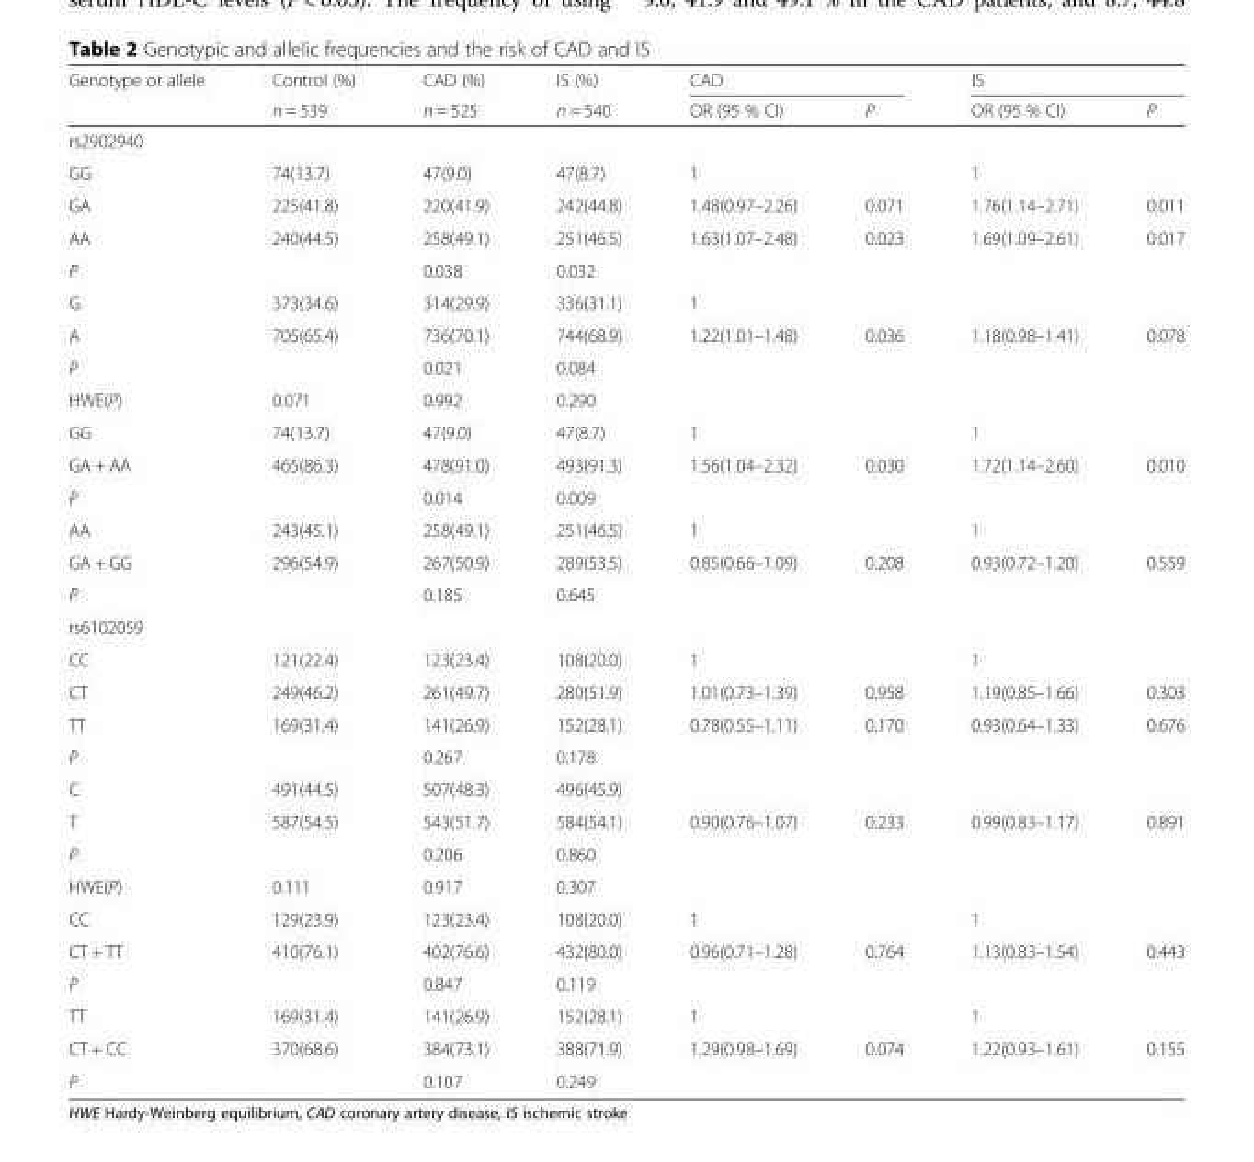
<table><thead><tr><td rowspan="2">Genotype or allele</td><td rowspan="2">Control (%) n = 539</td><td rowspan="2">CAD (%) n = 525</td><td rowspan="2">IS (%) n = 540</td><td colspan="2">CAD</td><td colspan="2">IS</td></tr><tr><td>OR (95 % CI)</td><td>P</td><td>OR (95 % CI)</td><td>P</td></tr></thead><tbody><tr><td colspan="8">rs2902940</td></tr><tr><td>GG</td><td>74(13.7)</td><td>47(9.0)</td><td>47(8.7)</td><td>1</td><td></td><td>1</td><td></td></tr><tr><td>GA</td><td>225(41.8)</td><td>220(41.9)</td><td>242(44.8)</td><td>1.48(0.97–2.26)</td><td>0.071</td><td>1.76(1.14–2.71)</td><td>0.011</td></tr><tr><td>AA</td><td>240(44.5)</td><td>258(49.1)</td><td>251(46.5)</td><td>1.63(1.07–2.48)</td><td>0.023</td><td>1.69(1.09–2.61)</td><td>0.017</td></tr><tr><td>P</td><td></td><td>0.038</td><td>0.032</td><td></td><td></td><td></td><td></td></tr><tr><td>G</td><td>373(34.6)</td><td>314(29.9)</td><td>336(31.1)</td><td>1</td><td></td><td></td><td></td></tr><tr><td>A</td><td>705(65.4)</td><td>736(70.1)</td><td>744(68.9)</td><td>1.22(1.01–1.48)</td><td>0.036</td><td>1.18(0.98–1.41)</td><td>0.078</td></tr><tr><td>P</td><td></td><td>0.021</td><td>0.084</td><td></td><td></td><td></td><td></td></tr><tr><td>HWE(P)</td><td>0.071</td><td>0.992</td><td>0.290</td><td></td><td></td><td></td><td></td></tr><tr><td>GG</td><td>74(13.7)</td><td>47(9.0)</td><td>47(8.7)</td><td>1</td><td></td><td>1</td><td></td></tr><tr><td>GA + AA</td><td>465(86.3)</td><td>478(91.0)</td><td>493(91.3)</td><td>1.56(1.04–2.32)</td><td>0.030</td><td>1.72(1.14–2.60)</td><td>0.010</td></tr><tr><td>P</td><td></td><td>0.014</td><td>0.009</td><td></td><td></td><td></td><td></td></tr><tr><td>AA</td><td>243(45.1)</td><td>258(49.1)</td><td>251(46.5)</td><td>1</td><td></td><td>1</td><td></td></tr><tr><td>GA + GG</td><td>296(54.9)</td><td>267(50.9)</td><td>289(53.5)</td><td>0.85(0.66–1.09)</td><td>0.208</td><td>0.93(0.72–1.20)</td><td>0.559</td></tr><tr><td>P</td><td></td><td>0.185</td><td>0.645</td><td></td><td></td><td></td><td></td></tr><tr><td colspan="8">rs6102059</td></tr><tr><td>CC</td><td>121(22.4)</td><td>123(23.4)</td><td>108(20.0)</td><td>1</td><td></td><td>1</td><td></td></tr><tr><td>CT</td><td>249(46.2)</td><td>261(49.7)</td><td>280(51.9)</td><td>1.01(0.73–1.39)</td><td>0.958</td><td>1.19(0.85–1.66)</td><td>0.303</td></tr><tr><td>TT</td><td>169(31.4)</td><td>141(26.9)</td><td>152(28.1)</td><td>0.78(0.55–1.11)</td><td>0.170</td><td>0.93(0.64–1.33)</td><td>0.676</td></tr><tr><td>P</td><td></td><td>0.267</td><td>0.178</td><td></td><td></td><td></td><td></td></tr><tr><td>C</td><td>491(44.5)</td><td>507(48.3)</td><td>496(45.9)</td><td></td><td></td><td></td><td></td></tr><tr><td>T</td><td>587(54.5)</td><td>543(51.7)</td><td>584(54.1)</td><td>0.90(0.76–1.07)</td><td>0.233</td><td>0.99(0.83–1.17)</td><td>0.891</td></tr><tr><td>P</td><td></td><td>0.206</td><td>0.860</td><td></td><td></td><td></td><td></td></tr><tr><td>HWE(P)</td><td>0.111</td><td>0.917</td><td>0.307</td><td></td><td></td><td></td><td></td></tr><tr><td>CC</td><td>129(23.9)</td><td>123(23.4)</td><td>108(20.0)</td><td>1</td><td></td><td>1</td><td></td></tr><tr><td>CT + TT</td><td>410(76.1)</td><td>402(76.6)</td><td>432(80.0)</td><td>0.96(0.71–1.28)</td><td>0.764</td><td>1.13(0.83–1.54)</td><td>0.443</td></tr><tr><td>P</td><td></td><td>0.847</td><td>0.119</td><td></td><td></td><td></td><td></td></tr><tr><td>TT</td><td>169(31.4)</td><td>141(26.9)</td><td>152(28.1)</td><td>1</td><td></td><td>1</td><td></td></tr><tr><td>CT + CC</td><td>370(68.6)</td><td>384(73.1)</td><td>388(71.9)</td><td>1.29(0.98–1.69)</td><td>0.074</td><td>1.22(0.93–1.61)</td><td>0.155</td></tr><tr><td>P</td><td></td><td>0.107</td><td>0.249</td><td></td><td></td><td></td><td></td></tr></tbody></table>